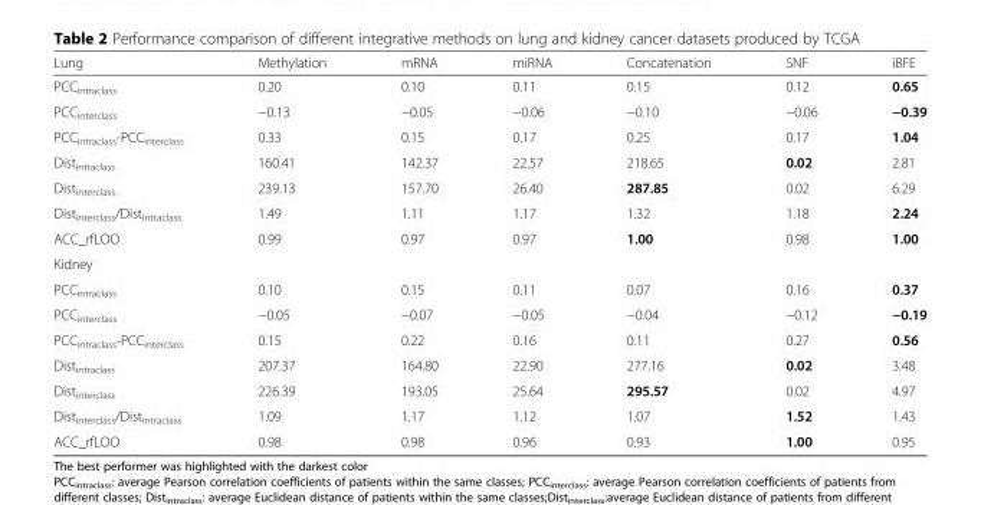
<table><thead><tr><td>Lung</td><td>Methylation</td><td>mRNA</td><td>miRNA</td><td>Concatenation</td><td>SNF</td><td>iBFE</td></tr></thead><tbody><tr><td>PCC<sub>intraclass</sub></td><td>0.20</td><td>0.10</td><td>0.11</td><td>0.15</td><td>0.12</td><td>0.65</td></tr><tr><td>PCC<sub>interclass</sub></td><td>−0.13</td><td>−0.05</td><td>−0.06</td><td>−0.10</td><td>−0.06</td><td>−0.39</td></tr><tr><td>PCC<sub>intraclass</sub>-PCC<sub>interclass</sub></td><td>0.33</td><td>0.15</td><td>0.17</td><td>0.25</td><td>0.17</td><td>1.04</td></tr><tr><td>Dist<sub>intraclass</sub></td><td>160.41</td><td>142.37</td><td>22.57</td><td>218.65</td><td>0.02</td><td>2.81</td></tr><tr><td>Dist<sub>interclass</sub></td><td>239.13</td><td>157.70</td><td>26.40</td><td>287.85</td><td>0.02</td><td>6.29</td></tr><tr><td>Dist<sub>interclass</sub>/Dist<sub>intraclass</sub></td><td>1.49</td><td>1.11</td><td>1.17</td><td>1.32</td><td>1.18</td><td>2.24</td></tr><tr><td>ACC_rfLOO</td><td>0.99</td><td>0.97</td><td>0.97</td><td>1.00</td><td>0.98</td><td>1.00</td></tr><tr><td colspan="7">Kidney</td></tr><tr><td>PCC<sub>intraclass</sub></td><td>0.10</td><td>0.15</td><td>0.11</td><td>0.07</td><td>0.16</td><td>0.37</td></tr><tr><td>PCC<sub>interclass</sub></td><td>−0.05</td><td>−0.07</td><td>−0.05</td><td>−0.04</td><td>−0.12</td><td>−0.19</td></tr><tr><td>PCC<sub>intraclass</sub>-PCC<sub>interclass</sub></td><td>0.15</td><td>0.22</td><td>0.16</td><td>0.11</td><td>0.27</td><td>0.56</td></tr><tr><td>Dist<sub>intraclass</sub></td><td>207.37</td><td>164.80</td><td>22.90</td><td>277.16</td><td>0.02</td><td>3.48</td></tr><tr><td>Dist<sub>interclass</sub></td><td>226.39</td><td>193.05</td><td>25.64</td><td>295.57</td><td>0.02</td><td>4.97</td></tr><tr><td>Dist<sub>interclass</sub>/Dist<sub>intraclass</sub></td><td>1.09</td><td>1.17</td><td>1.12</td><td>1.07</td><td>1.52</td><td>1.43</td></tr><tr><td>ACC_rfLOO</td><td>0.98</td><td>0.98</td><td>0.96</td><td>0.93</td><td>1.00</td><td>0.95</td></tr></tbody></table>